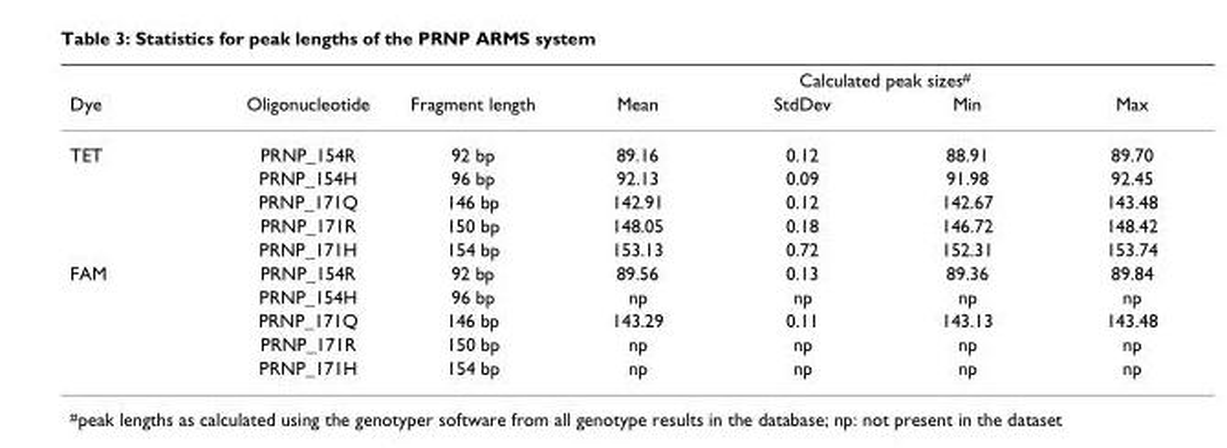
<table><thead><tr><td rowspan="2">Dye</td><td rowspan="2">Oligonucleotide</td><td rowspan="2">Fragment length</td><td colspan="4">Calculated peak sizes#</td></tr><tr><td>Mean</td><td>StdDev</td><td>Min</td><td>Max</td></tr></thead><tbody><tr><td rowspan="5">TET</td><td>PRNP_154R</td><td>92 bp</td><td>89.16</td><td>0.12</td><td>88.91</td><td>89.70</td></tr><tr><td>PRNP_154H</td><td>96 bp</td><td>92.13</td><td>0.09</td><td>91.98</td><td>92.45</td></tr><tr><td>PRNP_171Q</td><td>146 bp</td><td>142.91</td><td>0.12</td><td>142.67</td><td>143.48</td></tr><tr><td>PRNP_171R</td><td>150 bp</td><td>148.05</td><td>0.18</td><td>146.72</td><td>148.42</td></tr><tr><td>PRNP_171H</td><td>154 bp</td><td>153.13</td><td>0.72</td><td>152.31</td><td>153.74</td></tr><tr><td rowspan="5">FAM</td><td>PRNP_154R</td><td>92 bp</td><td>89.56</td><td>0.13</td><td>89.36</td><td>89.84</td></tr><tr><td>PRNP_154H</td><td>96 bp</td><td>np</td><td>np</td><td>np</td><td>np</td></tr><tr><td>PRNP_171Q</td><td>146 bp</td><td>143.29</td><td>0.11</td><td>143.13</td><td>143.48</td></tr><tr><td>PRNP_171R</td><td>150 bp</td><td>np</td><td>np</td><td>np</td><td>np</td></tr><tr><td>PRNP_171H</td><td>154 bp</td><td>np</td><td>np</td><td>np</td><td>np</td></tr></tbody></table>